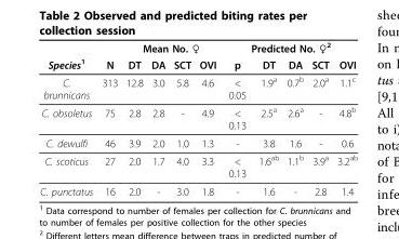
<table><thead><tr><td rowspan="2">Species<sup>1</sup></td><td rowspan="2">N</td><td colspan="4">Mean No. ♀</td><td colspan="5">Predicted No. ♀<sup>2</sup></td></tr><tr><td>DT</td><td>DA</td><td>SCT</td><td>OVI</td><td>p</td><td>DT</td><td>DA</td><td>SCT</td><td>OVI</td></tr></thead><tbody><tr><td>C. brunnicans</td><td>313</td><td>12.8</td><td>3.0</td><td>5.8</td><td>4.6</td><td>&lt; 0.05</td><td>1.9<sup>a</sup></td><td>0.7<sup>b</sup></td><td>2.0<sup>a</sup></td><td>1.1<sup>c</sup></td></tr><tr><td>C. obsoletus</td><td>75</td><td>2.8</td><td>2.8</td><td>-</td><td>4.9</td><td>&lt; 0.13</td><td>2.5<sup>a</sup></td><td>2.6<sup>a</sup></td><td>-</td><td>4.8<sup>b</sup></td></tr><tr><td>C. dewulfi</td><td>46</td><td>3.9</td><td>2.0</td><td>1.0</td><td>1.3</td><td>-</td><td>3.8</td><td>1.6</td><td>-</td><td>0.6</td></tr><tr><td>C. scoticus</td><td>27</td><td>2.0</td><td>1.7</td><td>4.0</td><td>3.3</td><td>&lt; 0.13</td><td>1.6<sup>ab</sup></td><td>1.1<sup>b</sup></td><td>3.9<sup>a</sup></td><td>3.2<sup>ab</sup></td></tr><tr><td>C. punctatus</td><td>16</td><td>2.0</td><td>-</td><td>3.0</td><td>1.8</td><td>-</td><td>1.6</td><td>-</td><td>2.8</td><td>1.4</td></tr></tbody></table>